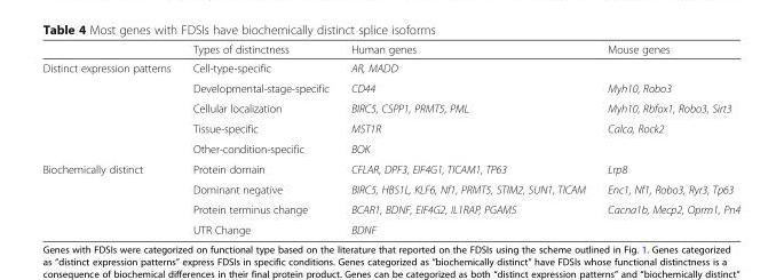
<table><thead><tr><td></td><td>Types of distinctness</td><td>Human genes</td><td>Mouse genes</td></tr></thead><tbody><tr><td rowspan="5">Distinct expression patterns</td><td>Cell-type-specific</td><td>AR, MADD</td><td></td></tr><tr><td>Developmental-stage-specific</td><td>CD44</td><td>Myh10, Robo3</td></tr><tr><td>Cellular localization</td><td>BIRC5, CSPP1, PRMT5, PML</td><td>Myh10, Rbfox1, Robo3, Sirt3</td></tr><tr><td>Tissue-specific</td><td>MST1R</td><td>Calca, Rock2</td></tr><tr><td>Other-condition-specific</td><td>BOK</td><td></td></tr><tr><td rowspan="4">Biochemically distinct</td><td>Protein domain</td><td>CFLAR, DPF3, EIF4G1, TICAM1, TP63</td><td>Lrp8</td></tr><tr><td>Dominant negative</td><td>BIRC5, HBS1L, KLF6, Nf1, PRMT5, STIM2, SUN1, TICAM</td><td>Enc1, Nf1, Robo3, Ryr3, Tp63</td></tr><tr><td>Protein terminus change</td><td>BCAR1, BDNF, EIF4G2, IL1RAP, PGAM5</td><td>Cacna1b, Mecp2, Oprm1, Pn4</td></tr><tr><td>UTR Change</td><td>BDNF</td><td></td></tr></tbody></table>